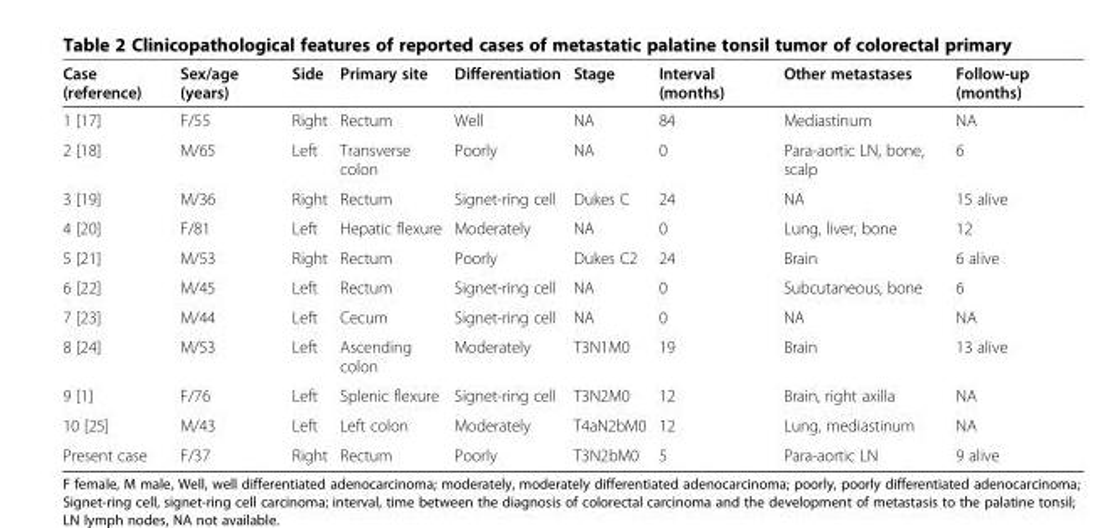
<table><thead><tr><td>Case (reference)</td><td>Sex/age (years)</td><td>Side</td><td>Primary site</td><td>Differentiation</td><td>Stage</td><td>Interval (months)</td><td>Other metastases</td><td>Follow-up (months)</td></tr></thead><tbody><tr><td>1 [17]</td><td>F/55</td><td>Right</td><td>Rectum</td><td>Well</td><td>NA</td><td>84</td><td>Mediastinum</td><td>NA</td></tr><tr><td>2 [18]</td><td>M/65</td><td>Left</td><td>Transverse colon</td><td>Poorly</td><td>NA</td><td>0</td><td>Para-aortic LN, bone, scalp</td><td>6</td></tr><tr><td>3 [19]</td><td>M/36</td><td>Right</td><td>Rectum</td><td>Signet-ring cell</td><td>Dukes C</td><td>24</td><td>NA</td><td>15 alive</td></tr><tr><td>4 [20]</td><td>F/81</td><td>Left</td><td>Hepatic flexure</td><td>Moderately</td><td>NA</td><td>0</td><td>Lung, liver, bone</td><td>12</td></tr><tr><td>5 [21]</td><td>M/53</td><td>Right</td><td>Rectum</td><td>Poorly</td><td>Dukes C2</td><td>24</td><td>Brain</td><td>6 alive</td></tr><tr><td>6 [22]</td><td>M/45</td><td>Left</td><td>Rectum</td><td>Signet-ring cell</td><td>NA</td><td>0</td><td>Subcutaneous, bone</td><td>6</td></tr><tr><td>7 [23]</td><td>M/44</td><td>Left</td><td>Cecum</td><td>Signet-ring cell</td><td>NA</td><td>0</td><td>NA</td><td>NA</td></tr><tr><td>8 [24]</td><td>M/53</td><td>Left</td><td>Ascending colon</td><td>Moderately</td><td>T3N1M0</td><td>19</td><td>Brain</td><td>13 alive</td></tr><tr><td>9 [1]</td><td>F/76</td><td>Left</td><td>Splenic flexure</td><td>Signet-ring cell</td><td>T3N2M0</td><td>12</td><td>Brain, right axilla</td><td>NA</td></tr><tr><td>10 [25]</td><td>M/43</td><td>Left</td><td>Left colon</td><td>Moderately</td><td>T4aN2bM0</td><td>12</td><td>Lung, mediastinum</td><td>NA</td></tr><tr><td>Present case</td><td>F/37</td><td>Right</td><td>Rectum</td><td>Poorly</td><td>T3N2bM0</td><td>5</td><td>Para-aortic LN</td><td>9 alive</td></tr></tbody></table>